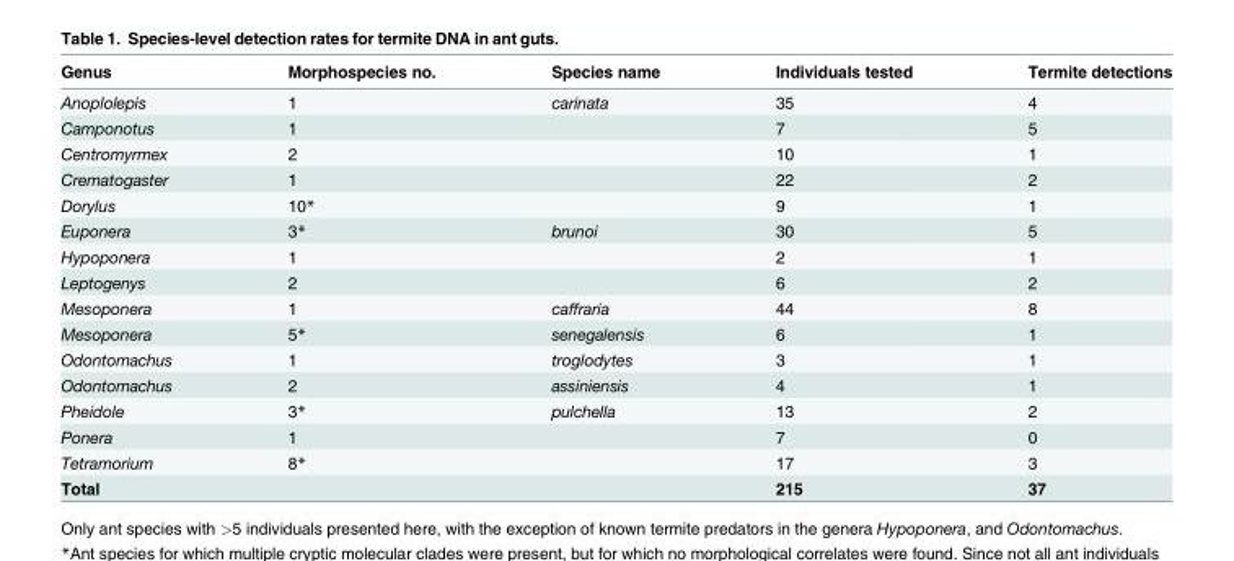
<table><thead><tr><td>Genus</td><td>Morphospecies no.</td><td>Species name</td><td>Individuals tested</td><td>Termite detections</td></tr></thead><tbody><tr><td>Anoplolepis</td><td>1</td><td>carinata</td><td>35</td><td>4</td></tr><tr><td>Camponotus</td><td>1</td><td></td><td>7</td><td>5</td></tr><tr><td>Centromyrmex</td><td>2</td><td></td><td>10</td><td>1</td></tr><tr><td>Crematogaster</td><td>1</td><td></td><td>22</td><td>2</td></tr><tr><td>Dorylus</td><td>10*</td><td></td><td>9</td><td>1</td></tr><tr><td>Euponera</td><td>3*</td><td>brunoi</td><td>30</td><td>5</td></tr><tr><td>Hypoponera</td><td>1</td><td></td><td>2</td><td>1</td></tr><tr><td>Leptogenys</td><td>2</td><td></td><td>6</td><td>2</td></tr><tr><td>Mesoponera</td><td>1</td><td>caffraria</td><td>44</td><td>8</td></tr><tr><td>Mesoponera</td><td>5*</td><td>senegalensis</td><td>6</td><td>1</td></tr><tr><td>Odontomachus</td><td>1</td><td>troglodytes</td><td>3</td><td>1</td></tr><tr><td>Odontomachus</td><td>2</td><td>assiniensis</td><td>4</td><td>1</td></tr><tr><td>Pheidole</td><td>3*</td><td>pulchella</td><td>13</td><td>2</td></tr><tr><td>Ponera</td><td>1</td><td></td><td>7</td><td>0</td></tr><tr><td>Tetramorium</td><td>8*</td><td></td><td>17</td><td>3</td></tr><tr><td>Total</td><td></td><td></td><td>215</td><td>37</td></tr></tbody></table>